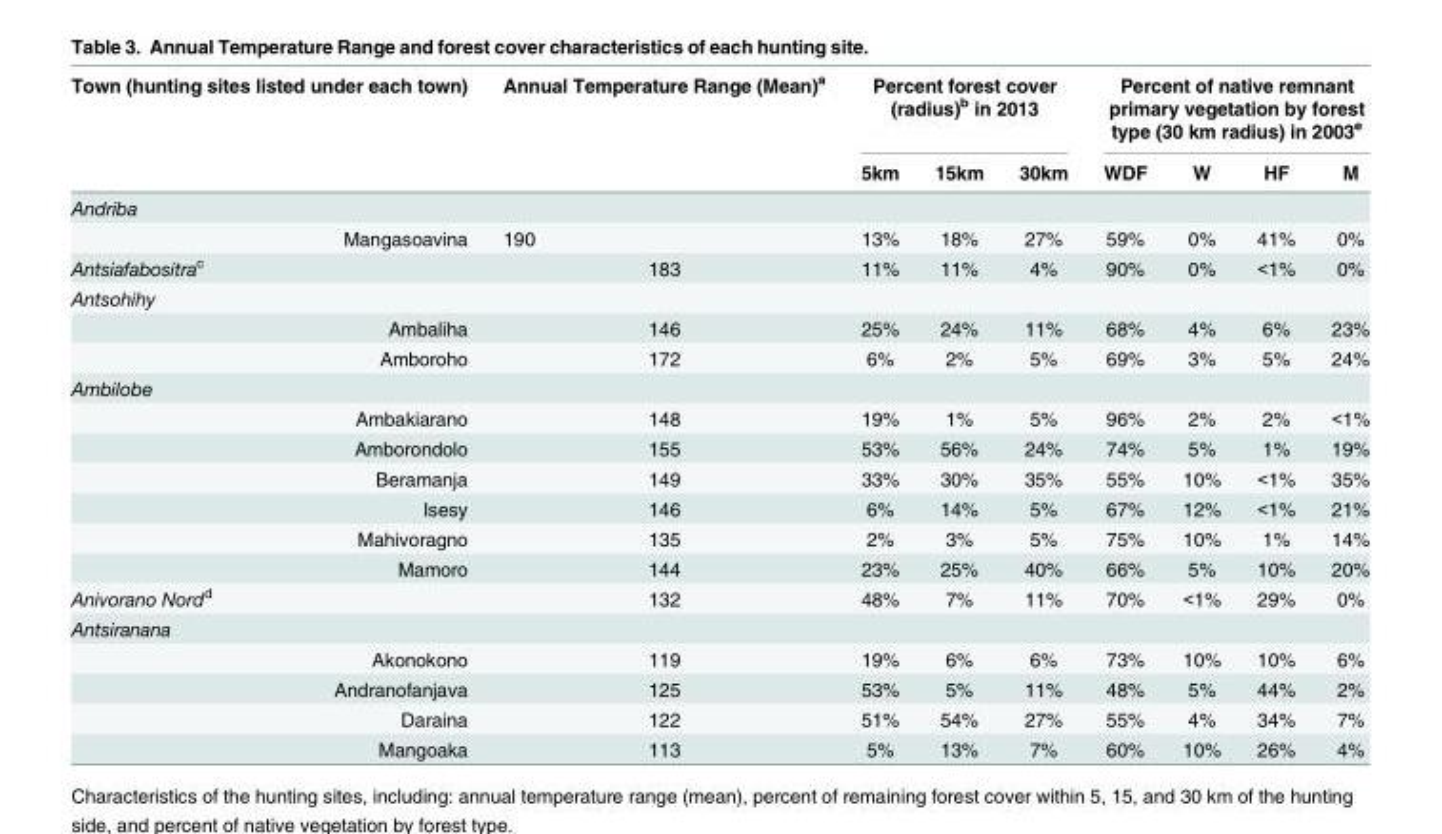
<table><thead><tr><td rowspan="2">Town (hunting sites listed under each town)</td><td rowspan="2">Annual Temperature Range (Mean)<sup>a</sup></td><td colspan="3">Percent forest cover (radius)<sup>b</sup> in 2013</td><td colspan="4">Percent of native remnant primary vegetation by forest type (30 km radius) in 2003<sup>e</sup></td></tr><tr><td>5km</td><td>15km</td><td>30km</td><td>WDF</td><td>W</td><td>HF</td><td>M</td></tr></thead><tbody><tr><td colspan="9">Andriba</td></tr><tr><td>Mangasoavina</td><td>190</td><td>13%</td><td>18%</td><td>27%</td><td>59%</td><td>0%</td><td>41%</td><td>0%</td></tr><tr><td>Antsiafabositra<sup>c</sup></td><td>183</td><td>11%</td><td>11%</td><td>4%</td><td>90%</td><td>0%</td><td>&lt;1%</td><td>0%</td></tr><tr><td colspan="9">Antsohihy</td></tr><tr><td>Ambaliha</td><td>146</td><td>25%</td><td>24%</td><td>11%</td><td>68%</td><td>4%</td><td>6%</td><td>23%</td></tr><tr><td>Amboroho</td><td>172</td><td>6%</td><td>2%</td><td>5%</td><td>69%</td><td>3%</td><td>5%</td><td>24%</td></tr><tr><td colspan="9">Ambilobe</td></tr><tr><td>Ambakiarano</td><td>148</td><td>19%</td><td>1%</td><td>5%</td><td>96%</td><td>2%</td><td>2%</td><td>&lt;1%</td></tr><tr><td>Amborondolo</td><td>155</td><td>53%</td><td>56%</td><td>24%</td><td>74%</td><td>5%</td><td>1%</td><td>19%</td></tr><tr><td>Beramanja</td><td>149</td><td>33%</td><td>30%</td><td>35%</td><td>55%</td><td>10%</td><td>&lt;1%</td><td>35%</td></tr><tr><td>Isesy</td><td>146</td><td>6%</td><td>14%</td><td>5%</td><td>67%</td><td>12%</td><td>&lt;1%</td><td>21%</td></tr><tr><td>Mahivoragno</td><td>135</td><td>2%</td><td>3%</td><td>5%</td><td>75%</td><td>10%</td><td>1%</td><td>14%</td></tr><tr><td>Mamoro</td><td>144</td><td>23%</td><td>25%</td><td>40%</td><td>66%</td><td>5%</td><td>10%</td><td>20%</td></tr><tr><td>Anivorano Nord<sup>d</sup></td><td>132</td><td>48%</td><td>7%</td><td>11%</td><td>70%</td><td>&lt;1%</td><td>29%</td><td>0%</td></tr><tr><td colspan="9">Antsiranana</td></tr><tr><td>Akonokono</td><td>119</td><td>19%</td><td>6%</td><td>6%</td><td>73%</td><td>10%</td><td>10%</td><td>6%</td></tr><tr><td>Andranofanjava</td><td>125</td><td>53%</td><td>5%</td><td>11%</td><td>48%</td><td>5%</td><td>44%</td><td>2%</td></tr><tr><td>Daraina</td><td>122</td><td>51%</td><td>54%</td><td>27%</td><td>55%</td><td>4%</td><td>34%</td><td>7%</td></tr><tr><td>Mangoaka</td><td>113</td><td>5%</td><td>13%</td><td>7%</td><td>60%</td><td>10%</td><td>26%</td><td>4%</td></tr></tbody></table>